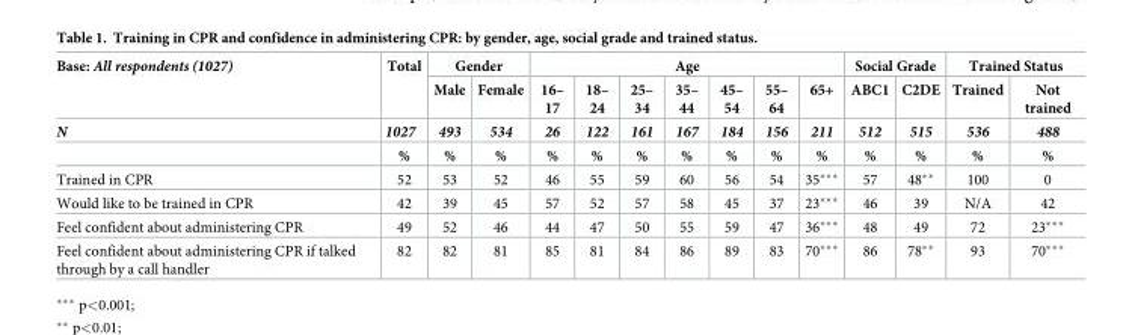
<table><thead><tr><td rowspan="4">Base: All respondents (1027) N</td><td rowspan="4">Total 1027 %</td><td colspan="2">Gender</td><td colspan="7">Age</td><td colspan="2">Social Grade</td><td colspan="2">Trained Status</td></tr><tr><td rowspan="3">Male 493 %</td><td rowspan="3">Female 534 %</td><td rowspan="3">16– 17 26 %</td><td rowspan="3">18– 24 122 %</td><td rowspan="3">25– 34 161 %</td><td rowspan="3">35– 44 167 %</td><td rowspan="3">45– 54 184 %</td><td rowspan="3">55– 64 156 %</td><td rowspan="3">65+ 211 %</td><td rowspan="3">ABC1 512 %</td><td rowspan="3">C2DE 515 %</td><td rowspan="3">Trained 536 %</td><td rowspan="3">Not trained 488 %</td></tr><tr></tr><tr></tr></thead><tbody><tr><td>Trained in CPR</td><td>52</td><td>53</td><td>52</td><td>46</td><td>55</td><td>59</td><td>60</td><td>56</td><td>54</td><td>35***</td><td>57</td><td>48**</td><td>100</td><td>0</td></tr><tr><td>Would like to be trained in CPR</td><td>42</td><td>39</td><td>45</td><td>57</td><td>52</td><td>57</td><td>58</td><td>45</td><td>37</td><td>23***</td><td>46</td><td>39</td><td>N/A</td><td>42</td></tr><tr><td>Feel confident about administering CPR</td><td>49</td><td>52</td><td>46</td><td>44</td><td>47</td><td>50</td><td>55</td><td>59</td><td>47</td><td>36***</td><td>48</td><td>49</td><td>72</td><td>23***</td></tr><tr><td>Feel confident about administering CPR if talked through by a call handler</td><td>82</td><td>82</td><td>81</td><td>85</td><td>81</td><td>84</td><td>86</td><td>89</td><td>83</td><td>70***</td><td>86</td><td>78**</td><td>93</td><td>70***</td></tr></tbody></table>